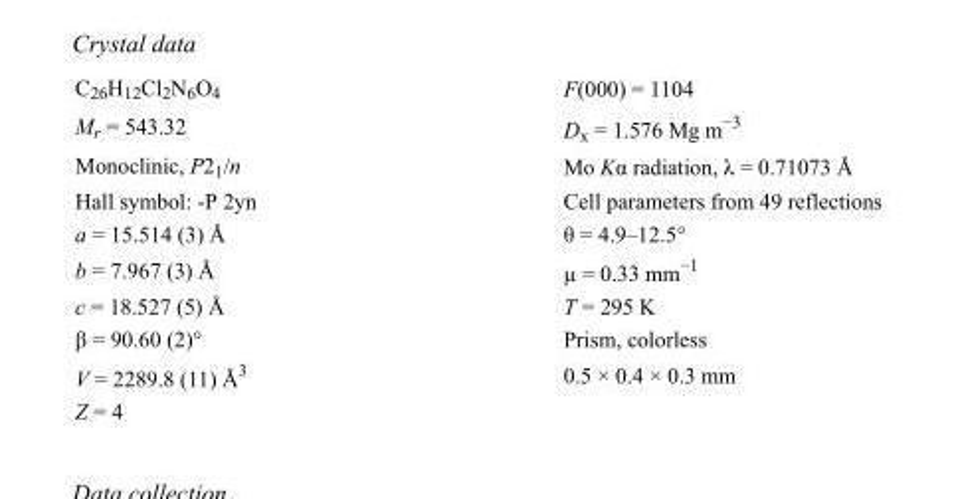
<table><tbody><tr><td>C<sub>26</sub>H<sub>12</sub>Cl<sub>2</sub>N<sub>6</sub>O<sub>4</sub></td><td>F(000) = 1104</td></tr><tr><td>M<sub>r</sub> = 543.32</td><td>D<sub>x</sub> = 1.576 Mg m<sup>−3</sup></td></tr><tr><td>Monoclinic, P2<sub>1</sub>/n</td><td>Mo Kα radiation, λ = 0.71073 Å</td></tr><tr><td>Hall symbol: -P 2yn</td><td>Cell parameters from 49 reflections</td></tr><tr><td>a = 15.514 (3) Å</td><td>θ = 4.9–12.5°</td></tr><tr><td>b = 7.967 (3) Å</td><td>µ = 0.33 mm<sup>−1</sup></td></tr><tr><td>c = 18.527 (5) Å</td><td>T = 295 K</td></tr><tr><td>β = 90.60 (2)°</td><td>Prism, colorless</td></tr><tr><td>V = 2289.8 (11) Å<sup>3</sup></td><td>0.5 × 0.4 × 0.3 mm</td></tr><tr><td>Z = 4</td><td></td></tr></tbody></table>